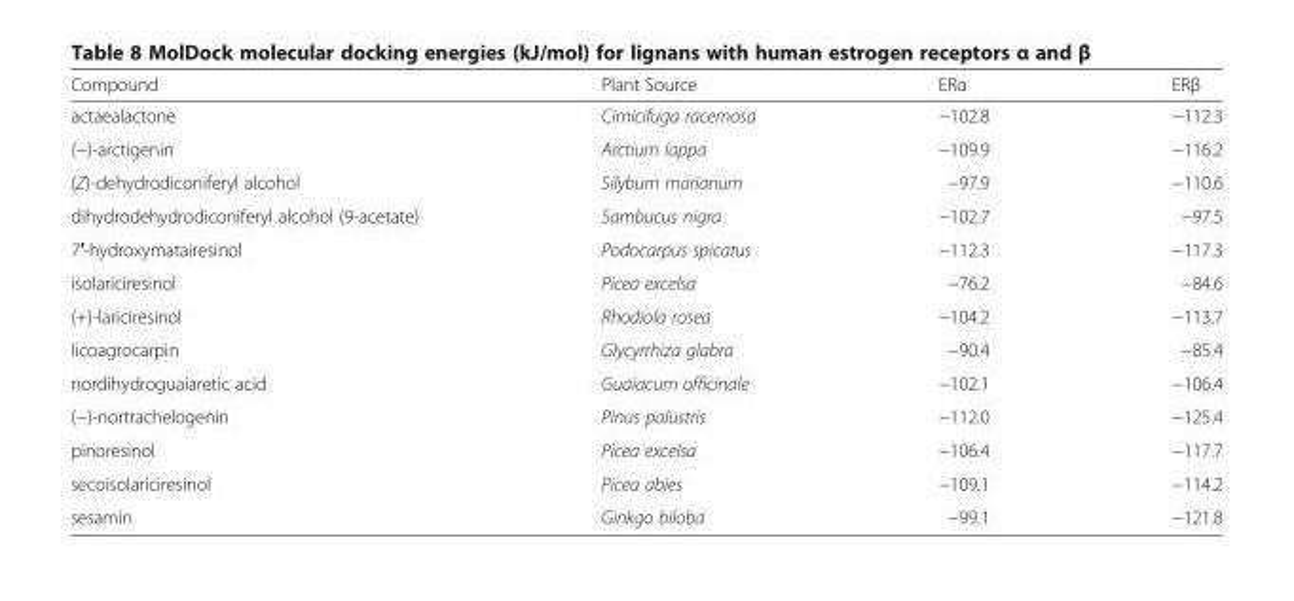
<table><thead><tr><td>Compound</td><td>Plant Source</td><td>ERα</td><td>ERβ</td></tr></thead><tbody><tr><td>actaealactone</td><td>Cimicifuga racemosa</td><td>−102.8</td><td>−112.3</td></tr><tr><td>(−)-arctigenin</td><td>Arctium lappa</td><td>−109.9</td><td>−116.2</td></tr><tr><td>(Z)-dehydrodiconiferyl alcohol</td><td>Silybum marianum</td><td>−97.9</td><td>−110.6</td></tr><tr><td>dihydrodehydrodiconiferyl alcohol (9-acetate)</td><td>Sambucus nigra</td><td>−102.7</td><td>−97.5</td></tr><tr><td>7′-hydroxymatairesinol</td><td>Podocarpus spicatus</td><td>−112.3</td><td>−117.3</td></tr><tr><td>isolariciresinol</td><td>Picea excelsa</td><td>−76.2</td><td>−84.6</td></tr><tr><td>(+)-lariciresinol</td><td>Rhodiola rosea</td><td>−104.2</td><td>−113.7</td></tr><tr><td>licoagrocarpin</td><td>Glycyrrhiza glabra</td><td>−90.4</td><td>−85.4</td></tr><tr><td>nordihydroguaiaretic acid</td><td>Guaiacum officinale</td><td>−102.1</td><td>−106.4</td></tr><tr><td>(−)-nortrachelogenin</td><td>Pinus palustris</td><td>−112.0</td><td>−125.4</td></tr><tr><td>pinoresinol</td><td>Picea excelsa</td><td>−106.4</td><td>−117.7</td></tr><tr><td>secoisolariciresinol</td><td>Picea abies</td><td>−109.1</td><td>−114.2</td></tr><tr><td>sesamin</td><td>Ginkgo biloba</td><td>−99.1</td><td>−121.8</td></tr></tbody></table>